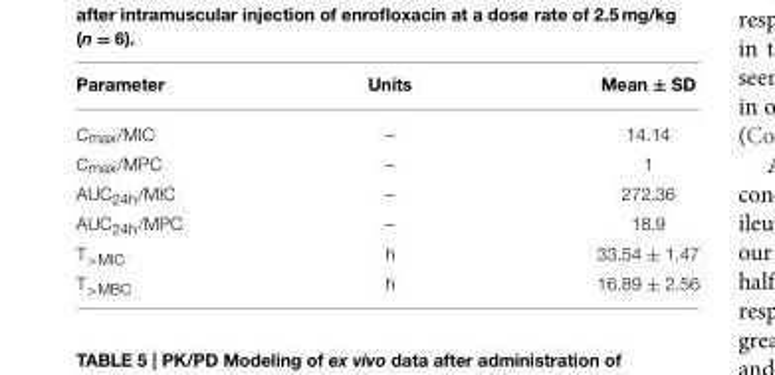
<table><thead><tr><td>Parameter</td><td>Units</td><td>Mean ± SD</td></tr></thead><tbody><tr><td>C<sub>max</sub>/MIC</td><td>–</td><td>14.14</td></tr><tr><td>C<sub>max</sub>/MPC</td><td>–</td><td>1</td></tr><tr><td>AUC<sub>24h</sub>/MIC</td><td>–</td><td>272.36</td></tr><tr><td>AUC<sub>24h</sub>/MPC</td><td>–</td><td>18.9</td></tr><tr><td>T<sub>&gt;MIC</sub></td><td>h</td><td>33.54 ± 1.47</td></tr><tr><td>T<sub>&gt;MBC</sub></td><td>h</td><td>16.89 ± 2.56</td></tr></tbody></table>